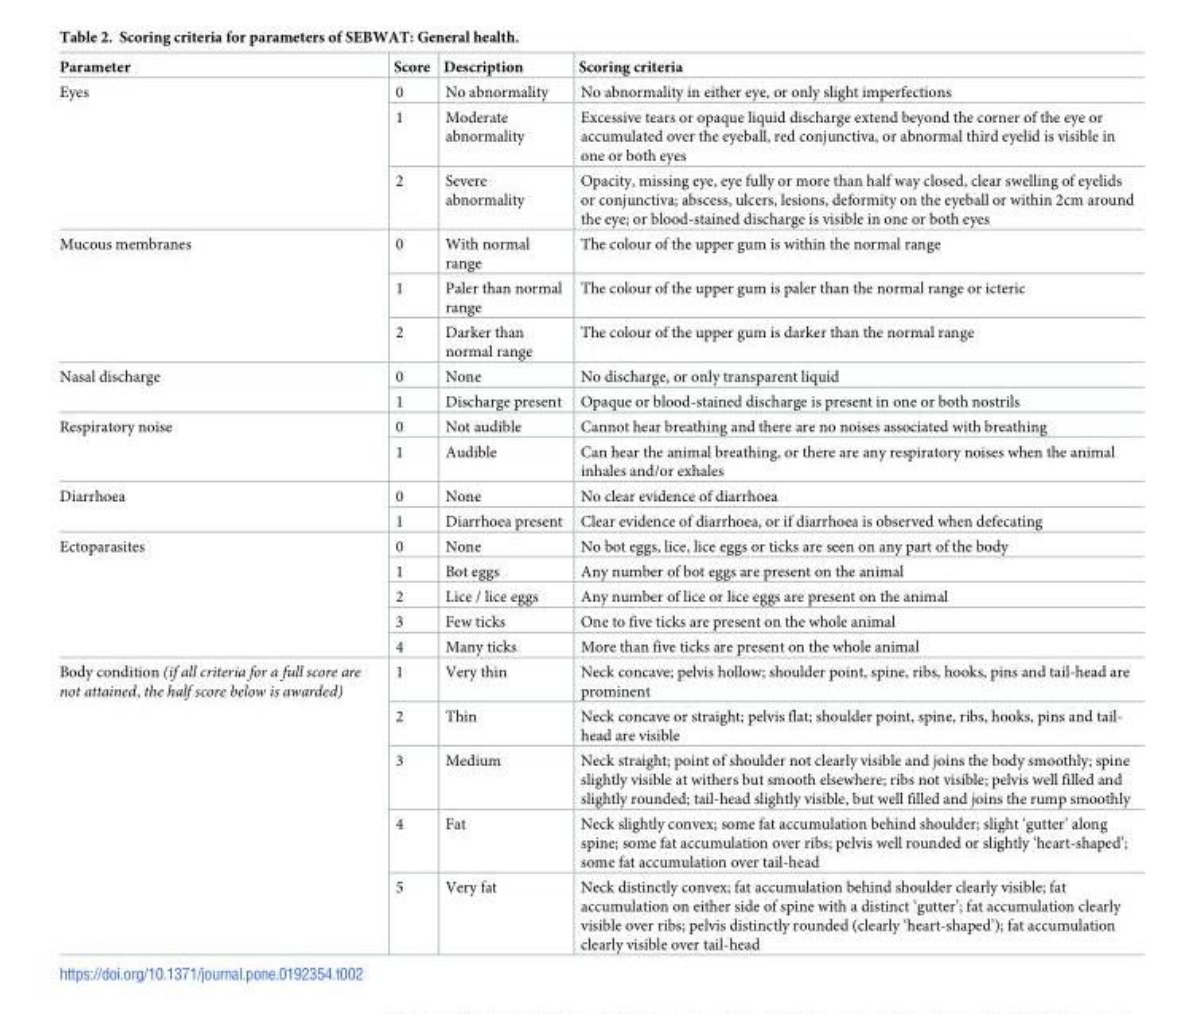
<table><thead><tr><td>Parameter</td><td>Score</td><td>Description</td><td>Scoring criteria</td></tr></thead><tbody><tr><td rowspan="3">Eyes</td><td>0</td><td>No abnormality</td><td>No abnormality in either eye, or only slight imperfections</td></tr><tr><td>1</td><td>Moderate abnormality</td><td>Excessive tears or opaque liquid discharge extend beyond the corner of the eye or accumulated over the eyeball, red conjunctiva, or abnormal third eyelid is visible in one or both eyes</td></tr><tr><td>2</td><td>Severe abnormality</td><td>Opacity, missing eye, eye fully or more than half way closed, clear swelling of eyelids or conjunctiva; abscess, ulcers, lesions, deformity on the eyeball or within 2cm around the eye; or blood-stained discharge is visible in one or both eyes</td></tr><tr><td rowspan="3">Mucous membranes</td><td>0</td><td>With normal range</td><td>The colour of the upper gum is within the normal range</td></tr><tr><td>1</td><td>Paler than normal range</td><td>The colour of the upper gum is paler than the normal range or icteric</td></tr><tr><td>2</td><td>Darker than normal range</td><td>The colour of the upper gum is darker than the normal range</td></tr><tr><td rowspan="2">Nasal discharge</td><td>0</td><td>None</td><td>No discharge, or only transparent liquid</td></tr><tr><td>1</td><td>Discharge present</td><td>Opaque or blood-stained discharge is present in one or both nostrils</td></tr><tr><td rowspan="2">Respiratory noise</td><td>0</td><td>Not audible</td><td>Cannot hear breathing and there are no noises associated with breathing</td></tr><tr><td>1</td><td>Audible</td><td>Can hear the animal breathing, or there are any respiratory noises when the animal inhales and/or exhales</td></tr><tr><td rowspan="2">Diarrhoea</td><td>0</td><td>None</td><td>No clear evidence of diarrhoea</td></tr><tr><td>1</td><td>Diarrhoea present</td><td>Clear evidence of diarrhoea, or if diarrhoea is observed when defecating</td></tr><tr><td rowspan="5">Ectoparasites</td><td>0</td><td>None</td><td>No bot eggs, lice, lice eggs or ticks are seen on any part of the body</td></tr><tr><td>1</td><td>Bot eggs</td><td>Any number of bot eggs are present on the animal</td></tr><tr><td>2</td><td>Lice / lice eggs</td><td>Any number of lice or lice eggs are present on the animal</td></tr><tr><td>3</td><td>Few ticks</td><td>One to five ticks are present on the whole animal</td></tr><tr><td>4</td><td>Many ticks</td><td>More than five ticks are present on the whole animal</td></tr><tr><td rowspan="5">Body condition (if all criteria for a full score are not attained, the half score below is awarded)</td><td>1</td><td>Very thin</td><td>Neck concave; pelvis hollow; shoulder point, spine, ribs, hooks, pins and tail-head are prominent</td></tr><tr><td>2</td><td>Thin</td><td>Neck concave or straight; pelvis flat; shoulder point, spine, ribs, hooks, pins and tail- head are visible</td></tr><tr><td>3</td><td>Medium</td><td>Neck straight; point of shoulder not clearly visible and joins the body smoothly; spine slightly visible at withers but smooth elsewhere; ribs not visible; pelvis well filled and slightly rounded; tail-head slightly visible, but well filled and joins the rump smoothly</td></tr><tr><td>4</td><td>Fat</td><td>Neck slightly convex; some fat accumulation behind shoulder; slight ‘gutter’ along spine; some fat accumulation over ribs; pelvis well rounded or slightly ‘heart-shaped’; some fat accumulation over tail-head</td></tr><tr><td>5</td><td>Very fat</td><td>Neck distinctly convex; fat accumulation behind shoulder clearly visible; fat accumulation on either side of spine with a distinct ‘gutter’; fat accumulation clearly visible over ribs; pelvis distinctly rounded (clearly ‘heart-shaped’); fat accumulation clearly visible over tail-head</td></tr></tbody></table>